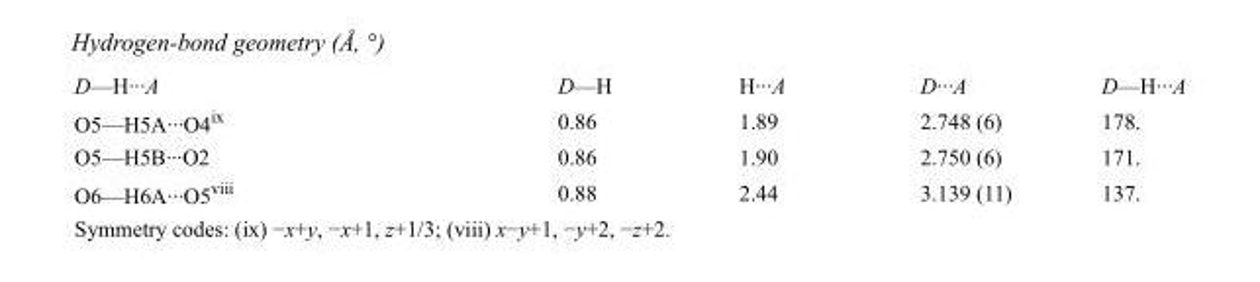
<table><tbody><tr><td>D—H···A</td><td>D—H</td><td>H···A</td><td>D···A</td><td>D—H···A</td></tr><tr><td>O5—H5A···O4<sup>ix</sup></td><td>0.86</td><td>1.89</td><td>2.748 (6)</td><td>178.</td></tr><tr><td>O5—H5B···O2</td><td>0.86</td><td>1.90</td><td>2.750 (6)</td><td>171.</td></tr><tr><td>O6—H6A···O5<sup>viii</sup></td><td>0.88</td><td>2.44</td><td>3.139 (11)</td><td>137.</td></tr></tbody></table>